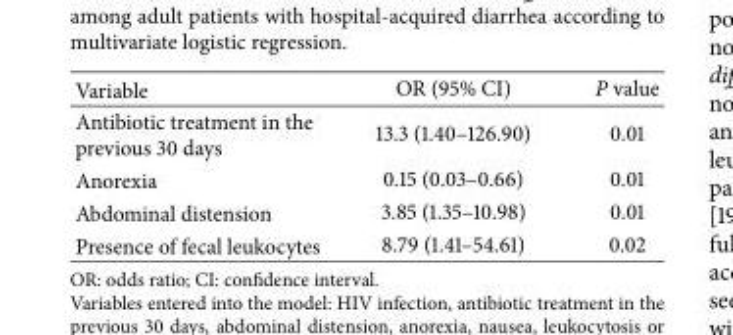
<table><tbody><tr><td>Variable</td><td>OR (95% CI)</td><td>P value</td></tr><tr><td>Antibiotic treatment in the previous 30 days</td><td>13.3 (1.40–126.90)</td><td>0.01</td></tr><tr><td>Anorexia</td><td>0.15 (0.03–0.66)</td><td>0.01</td></tr><tr><td>Abdominal distension</td><td>3.85 (1.35–10.98)</td><td>0.01</td></tr><tr><td>Presence of fecal leukocytes</td><td>8.79 (1.41–54.61)</td><td>0.02</td></tr></tbody></table>